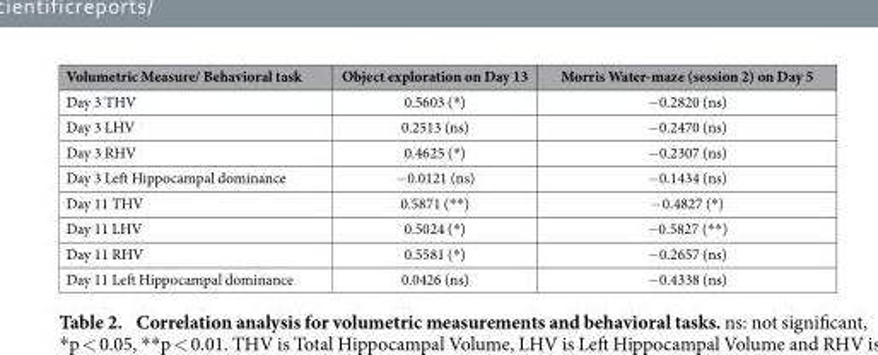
<table><thead><tr><td>Volumetric Measure/ Behavioral task</td><td>Object exploration on Day 13</td><td>Morris Water-maze (session 2) on Day 5</td></tr></thead><tbody><tr><td>Day 3 THV</td><td>0.5603 (* )</td><td>− 0.2820 (ns)</td></tr><tr><td>Day 3 LHV</td><td>0.2513 (ns)</td><td>− 0.2470 (ns)</td></tr><tr><td>Day 3 RHV</td><td>0.4625 (* )</td><td>− 0.2307 (ns)</td></tr><tr><td>Day 3 Left Hippocampal dominance</td><td>− 0.0121 (ns)</td><td>− 0.1434 (ns)</td></tr><tr><td>Day 11 THV</td><td>0.5871 (* * )</td><td>− 0.4827 (* )</td></tr><tr><td>Day 11 LHV</td><td>0.5024 (* )</td><td>− 0.5827 (* * )</td></tr><tr><td>Day 11 RHV</td><td>0.5581 (* )</td><td>− 0.2657 (ns)</td></tr><tr><td>Day 11 Left Hippocampal dominance</td><td>0.0426 (ns)</td><td>− 0.4338 (ns)</td></tr></tbody></table>